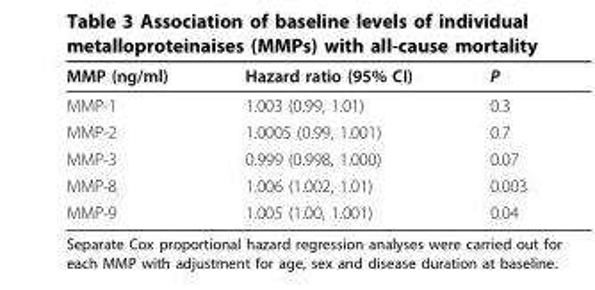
<table><thead><tr><td>MMP (ng/ml)</td><td>Hazard ratio (95% CI)</td><td>P</td></tr></thead><tbody><tr><td>MMP-1</td><td>1.003 (0.99, 1.01)</td><td>0.3</td></tr><tr><td>MMP-2</td><td>1.0005 (0.99, 1.001)</td><td>0.7</td></tr><tr><td>MMP-3</td><td>0.999 (0.998, 1.000)</td><td>0.07</td></tr><tr><td>MMP-8</td><td>1.006 (1.002, 1.01)</td><td>0.003</td></tr><tr><td>MMP-9</td><td>1.005 (1.00, 1.001)</td><td>0.04</td></tr></tbody></table>